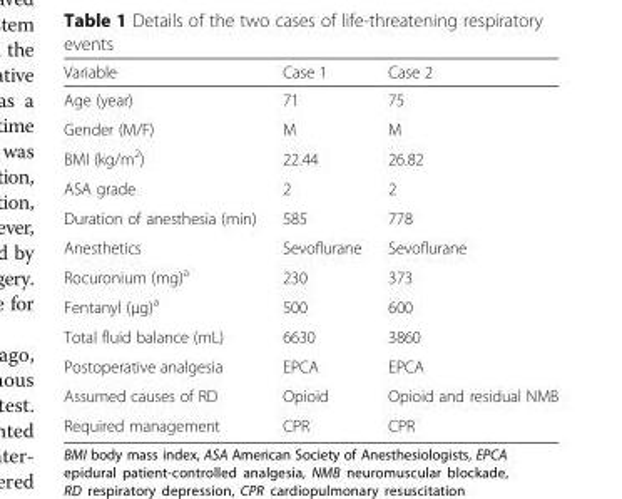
<table><thead><tr><td>Variable</td><td>Case 1</td><td>Case 2</td></tr></thead><tbody><tr><td>Age (year)</td><td>71</td><td>75</td></tr><tr><td>Gender (M/F)</td><td>M</td><td>M</td></tr><tr><td>BMI (kg/m<sup>2</sup>)</td><td>22.44</td><td>26.82</td></tr><tr><td>ASA grade</td><td>2</td><td>2</td></tr><tr><td>Duration of anesthesia (min)</td><td>585</td><td>778</td></tr><tr><td>Anesthetics</td><td>Sevoflurane</td><td>Sevoflurane</td></tr><tr><td>Rocuronium (mg)<sup>a</sup></td><td>230</td><td>373</td></tr><tr><td>Fentanyl (μg)<sup>a</sup></td><td>500</td><td>600</td></tr><tr><td>Total fluid balance (mL)</td><td>6630</td><td>3860</td></tr><tr><td>Postoperative analgesia</td><td>EPCA</td><td>EPCA</td></tr><tr><td>Assumed causes of RD</td><td>Opioid</td><td>Opioid and residual NMB</td></tr><tr><td>Required management</td><td>CPR</td><td>CPR</td></tr></tbody></table>